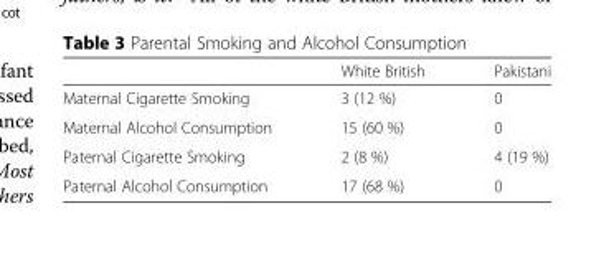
<table><thead><tr><td></td><td>White British</td><td>Pakistani</td></tr></thead><tbody><tr><td>Maternal Cigarette Smoking</td><td>3 (12 %)</td><td>0</td></tr><tr><td>Maternal Alcohol Consumption</td><td>15 (60 %)</td><td>0</td></tr><tr><td>Paternal Cigarette Smoking</td><td>2 (8 %)</td><td>4 (19 %)</td></tr><tr><td>Paternal Alcohol Consumption</td><td>17 (68 %)</td><td>0</td></tr></tbody></table>